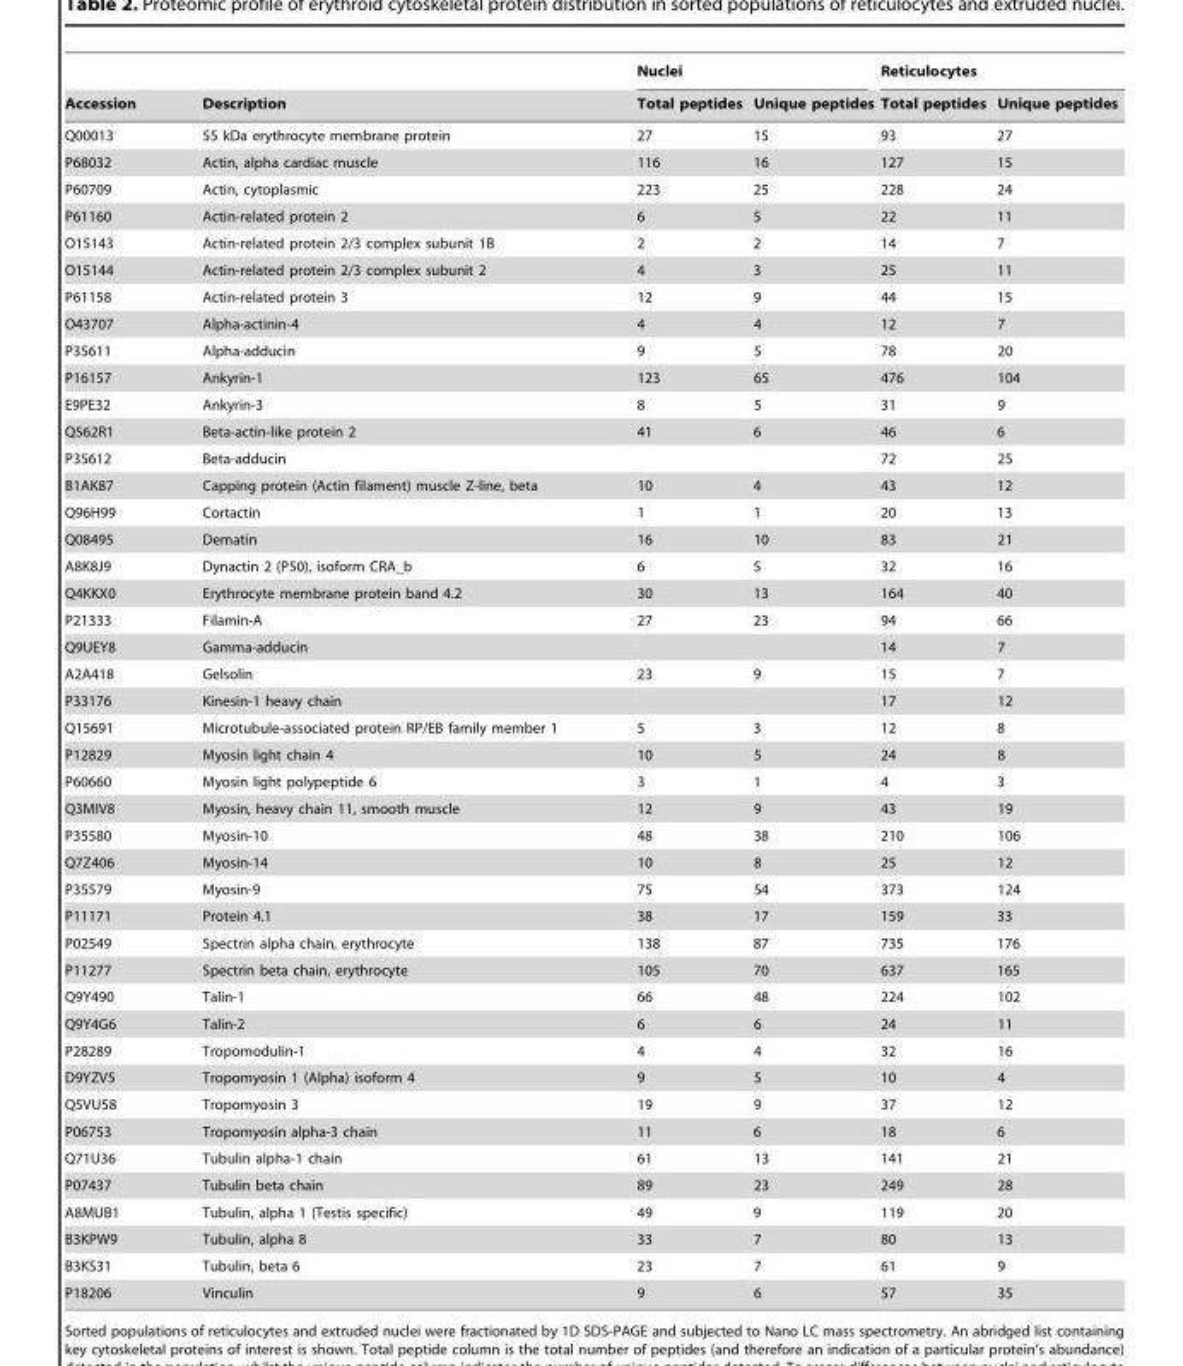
<table><thead><tr><td rowspan="2">Accession</td><td rowspan="2">Description</td><td colspan="2">Nuclei</td><td colspan="2">Reticulocytes</td></tr><tr><td>Total peptides</td><td>Unique peptides</td><td>Total peptides</td><td>Unique peptides</td></tr></thead><tbody><tr><td>Q00013</td><td>55 kDa erythrocyte membrane protein</td><td>27</td><td>15</td><td>93</td><td>27</td></tr><tr><td>P68032</td><td>Actin, alpha cardiac muscle</td><td>116</td><td>16</td><td>127</td><td>15</td></tr><tr><td>P60709</td><td>Actin, cytoplasmic</td><td>223</td><td>25</td><td>228</td><td>24</td></tr><tr><td>P61160</td><td>Actin-related protein 2</td><td>6</td><td>5</td><td>22</td><td>11</td></tr><tr><td>O15143</td><td>Actin-related protein 2/3 complex subunit 1B</td><td>2</td><td>2</td><td>14</td><td>7</td></tr><tr><td>O15144</td><td>Actin-related protein 2/3 complex subunit 2</td><td>4</td><td>3</td><td>25</td><td>11</td></tr><tr><td>P61158</td><td>Actin-related protein 3</td><td>12</td><td>9</td><td>44</td><td>15</td></tr><tr><td>O43707</td><td>Alpha-actinin-4</td><td>4</td><td>4</td><td>12</td><td>7</td></tr><tr><td>P35611</td><td>Alpha-adducin</td><td>9</td><td>5</td><td>78</td><td>20</td></tr><tr><td>P16157</td><td>Ankyrin-1</td><td>123</td><td>65</td><td>476</td><td>104</td></tr><tr><td>E9PE32</td><td>Ankyrin-3</td><td>8</td><td>5</td><td>31</td><td>9</td></tr><tr><td>Q562R1</td><td>Beta-actin-like protein 2</td><td>41</td><td>6</td><td>46</td><td>6</td></tr><tr><td>P35612</td><td>Beta-adducin</td><td></td><td></td><td>72</td><td>25</td></tr><tr><td>B1AK87</td><td>Capping protein (Actin filament) muscle Z-line, beta</td><td>10</td><td>4</td><td>43</td><td>12</td></tr><tr><td>Q96H99</td><td>Cortactin</td><td>1</td><td>1</td><td>20</td><td>13</td></tr><tr><td>Q08495</td><td>Dematin</td><td>16</td><td>10</td><td>83</td><td>21</td></tr><tr><td>A8K8J9</td><td>Dynactin 2 (P50), isoform CRA_b</td><td>6</td><td>5</td><td>32</td><td>16</td></tr><tr><td>Q4KKX0</td><td>Erythrocyte membrane protein band 4.2</td><td>30</td><td>13</td><td>164</td><td>40</td></tr><tr><td>P21333</td><td>Filamin-A</td><td>27</td><td>23</td><td>94</td><td>66</td></tr><tr><td>Q9UEY8</td><td>Gamma-adducin</td><td></td><td></td><td>14</td><td>7</td></tr><tr><td>A2A418</td><td>Gelsolin</td><td>23</td><td>9</td><td>15</td><td>7</td></tr><tr><td>P33176</td><td>Kinesin-1 heavy chain</td><td></td><td></td><td>17</td><td>12</td></tr><tr><td>Q15691</td><td>Microtubule-associated protein RP/EB family member 1</td><td>5</td><td>3</td><td>12</td><td>8</td></tr><tr><td>P12829</td><td>Myosin light chain 4</td><td>10</td><td>5</td><td>24</td><td>8</td></tr><tr><td>P60660</td><td>Myosin light polypeptide 6</td><td>3</td><td>1</td><td>4</td><td>3</td></tr><tr><td>Q3MIV8</td><td>Myosin, heavy chain 11, smooth muscle</td><td>12</td><td>9</td><td>43</td><td>19</td></tr><tr><td>P35580</td><td>Myosin-10</td><td>48</td><td>38</td><td>210</td><td>106</td></tr><tr><td>Q7Z406</td><td>Myosin-14</td><td>10</td><td>8</td><td>25</td><td>12</td></tr><tr><td>P35579</td><td>Myosin-9</td><td>75</td><td>54</td><td>373</td><td>124</td></tr><tr><td>P11171</td><td>Protein 4.1</td><td>38</td><td>17</td><td>159</td><td>33</td></tr><tr><td>P02549</td><td>Spectrin alpha chain, erythrocyte</td><td>138</td><td>87</td><td>735</td><td>176</td></tr><tr><td>P11277</td><td>Spectrin beta chain, erythrocyte</td><td>105</td><td>70</td><td>637</td><td>165</td></tr><tr><td>Q9Y490</td><td>Talin-1</td><td>66</td><td>48</td><td>224</td><td>102</td></tr><tr><td>Q9Y4G6</td><td>Talin-2</td><td>6</td><td>6</td><td>24</td><td>11</td></tr><tr><td>P28289</td><td>Tropomodulin-1</td><td>4</td><td>4</td><td>32</td><td>16</td></tr><tr><td>D9YZV5</td><td>Tropomyosin 1 (Alpha) isoform 4</td><td>9</td><td>5</td><td>10</td><td>4</td></tr><tr><td>Q5VU58</td><td>Tropomyosin 3</td><td>19</td><td>9</td><td>37</td><td>12</td></tr><tr><td>P06753</td><td>Tropomyosin alpha-3 chain</td><td>11</td><td>6</td><td>18</td><td>6</td></tr><tr><td>Q71U36</td><td>Tubulin alpha-1 chain</td><td>61</td><td>13</td><td>141</td><td>21</td></tr><tr><td>P07437</td><td>Tubulin beta chain</td><td>89</td><td>23</td><td>249</td><td>28</td></tr><tr><td>A8MUB1</td><td>Tubulin, alpha 1 (Testis specific)</td><td>49</td><td>9</td><td>119</td><td>20</td></tr><tr><td>B3KPW9</td><td>Tubulin, alpha 8</td><td>33</td><td>7</td><td>80</td><td>13</td></tr><tr><td>B3KS31</td><td>Tubulin, beta 6</td><td>23</td><td>7</td><td>61</td><td>9</td></tr><tr><td>P18206</td><td>Vinculin</td><td>9</td><td>6</td><td>57</td><td>35</td></tr></tbody></table>